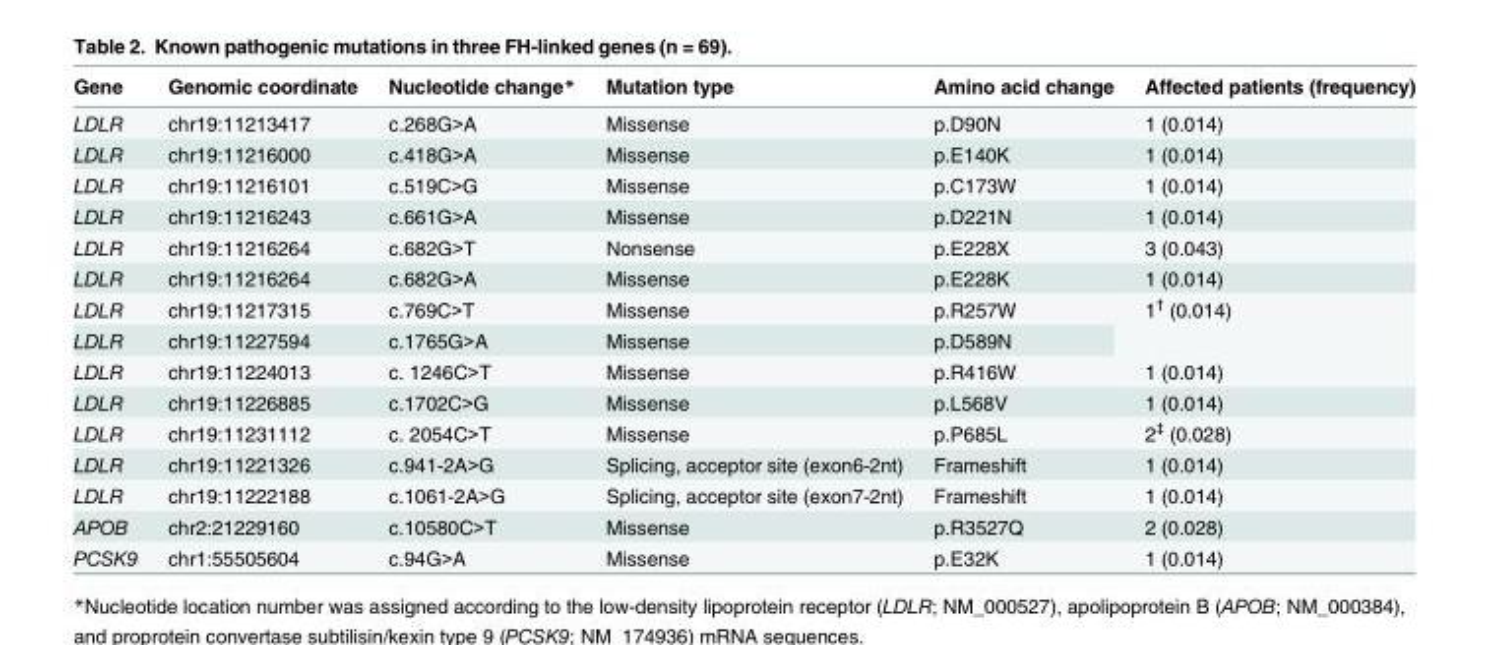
<table><thead><tr><td>Gene</td><td>Genomic coordinate</td><td>Nucleotide change*</td><td>Mutation type</td><td>Amino acid change</td><td>Affected patients (frequency)</td></tr></thead><tbody><tr><td>LDLR</td><td>chr19:11213417</td><td>c.268G&gt;A</td><td>Missense</td><td>p.D90N</td><td>1 (0.014)</td></tr><tr><td>LDLR</td><td>chr19:11216000</td><td>c.418G&gt;A</td><td>Missense</td><td>p.E140K</td><td>1 (0.014)</td></tr><tr><td>LDLR</td><td>chr19:11216101</td><td>c.519C&gt;G</td><td>Missense</td><td>p.C173W</td><td>1 (0.014)</td></tr><tr><td>LDLR</td><td>chr19:11216243</td><td>c.661G&gt;A</td><td>Missense</td><td>p.D221N</td><td>1 (0.014)</td></tr><tr><td>LDLR</td><td>chr19:11216264</td><td>c.682G&gt;T</td><td>Nonsense</td><td>p.E228X</td><td>3 (0.043)</td></tr><tr><td>LDLR</td><td>chr19:11216264</td><td>c.682G&gt;A</td><td>Missense</td><td>p.E228K</td><td>1 (0.014)</td></tr><tr><td>LDLR</td><td>chr19:11217315</td><td>c.769C&gt;T</td><td>Missense</td><td>p.R257W</td><td rowspan="2">1<sup>†</sup> (0.014)</td></tr><tr><td>LDLR</td><td>chr19:11227594</td><td>c.1765G&gt;A</td><td>Missense</td><td>p.D589N</td></tr><tr><td>LDLR</td><td>chr19:11224013</td><td>c. 1246C&gt;T</td><td>Missense</td><td>p.R416W</td><td>1 (0.014)</td></tr><tr><td>LDLR</td><td>chr19:11226885</td><td>c.1702C&gt;G</td><td>Missense</td><td>p.L568V</td><td>1 (0.014)</td></tr><tr><td>LDLR</td><td>chr19:11231112</td><td>c. 2054C&gt;T</td><td>Missense</td><td>p.P685L</td><td>2<sup>‡</sup> (0.028)</td></tr><tr><td>LDLR</td><td>chr19:11221326</td><td>c.941-2A&gt;G</td><td>Splicing, acceptor site (exon6-2nt)</td><td>Frameshift</td><td>1 (0.014)</td></tr><tr><td>LDLR</td><td>chr19:11222188</td><td>c.1061-2A&gt;G</td><td>Splicing, acceptor site (exon7-2nt)</td><td>Frameshift</td><td>1 (0.014)</td></tr><tr><td>APOB</td><td>chr2:21229160</td><td>c.10580C&gt;T</td><td>Missense</td><td>p.R3527Q</td><td>2 (0.028)</td></tr><tr><td>PCSK9</td><td>chr1:55505604</td><td>c.94G&gt;A</td><td>Missense</td><td>p.E32K</td><td>1 (0.014)</td></tr></tbody></table>